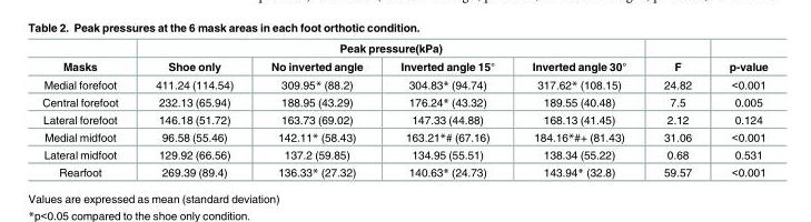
<table><thead><tr><td rowspan="2">Masks</td><td colspan="4">Peak pressure(kPa)</td><td rowspan="2">F</td><td rowspan="2">p-value</td></tr><tr><td>Shoe only</td><td>No inverted angle</td><td>Inverted angle 15°</td><td>Inverted angle 30°</td></tr></thead><tbody><tr><td>Medial forefoot</td><td>411.24 (114.54)</td><td>309.95* (88.2)</td><td>304.83* (94.74)</td><td>317.62* (108.15)</td><td>24.82</td><td>&lt;0.001</td></tr><tr><td>Central forefoot</td><td>232.13 (65.94)</td><td>188.95 (43.29)</td><td>176.24* (43.32)</td><td>189.55 (40.48)</td><td>7.5</td><td>0.005</td></tr><tr><td>Lateral forefoot</td><td>146.18 (51.72)</td><td>163.73 (69.02)</td><td>147.33 (44.88)</td><td>168.13 (41.45)</td><td>2.12</td><td>0.124</td></tr><tr><td>Medial midfoot</td><td>96.58 (55.46)</td><td>142.11* (58.43)</td><td>163.21*# (67.16)</td><td>184.16*#+ (81.43)</td><td>31.06</td><td>&lt;0.001</td></tr><tr><td>Lateral midfoot</td><td>129.92 (66.56)</td><td>137.2 (59.85)</td><td>134.95 (55.51)</td><td>138.34 (55.22)</td><td>0.68</td><td>0.531</td></tr><tr><td>Rearfoot</td><td>269.39 (89.4)</td><td>136.33* (27.32)</td><td>140.63* (24.73)</td><td>143.94* (32.8)</td><td>59.57</td><td>&lt;0.001</td></tr></tbody></table>